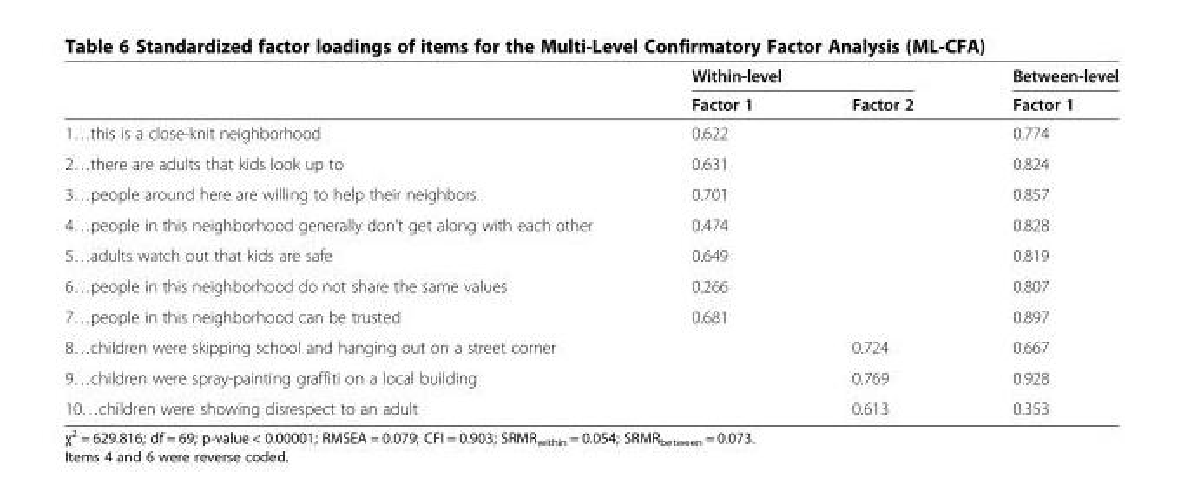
<table><thead><tr><td rowspan="2"></td><td colspan="2">Within-level</td><td rowspan="2">Between-level Factor 1</td></tr><tr><td>Factor 1</td><td>Factor 2</td></tr></thead><tbody><tr><td>1…this is a close-knit neighborhood</td><td>0.622</td><td></td><td>0.774</td></tr><tr><td>2…there are adults that kids look up to</td><td>0.631</td><td></td><td>0.824</td></tr><tr><td>3…people around here are willing to help their neighbors</td><td>0.701</td><td></td><td>0.857</td></tr><tr><td>4…people in this neighborhood generally don’t get along with each other</td><td>0.474</td><td></td><td>0.828</td></tr><tr><td>5…adults watch out that kids are safe</td><td>0.649</td><td></td><td>0.819</td></tr><tr><td>6…people in this neighborhood do not share the same values</td><td>0.266</td><td></td><td>0.807</td></tr><tr><td>7…people in this neighborhood can be trusted</td><td>0.681</td><td></td><td>0.897</td></tr><tr><td>8…children were skipping school and hanging out on a street corner</td><td></td><td>0.724</td><td>0.667</td></tr><tr><td>9…children were spray-painting graffiti on a local building</td><td></td><td>0.769</td><td>0.928</td></tr><tr><td>10…children were showing disrespect to an adult</td><td></td><td>0.613</td><td>0.353</td></tr></tbody></table>